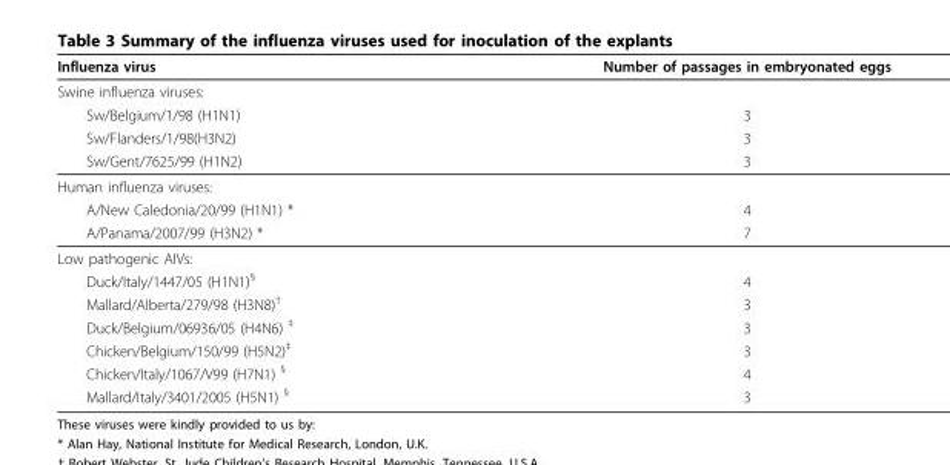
<table><thead><tr><td>Influenza virus</td><td>Number of passages in embryonated eggs</td></tr></thead><tbody><tr><td colspan="2">Swine influenza viruses:</td></tr><tr><td>Sw/Belgium/1/98 (H1N1)</td><td>3</td></tr><tr><td>Sw/Flanders/1/98(H3N2)</td><td>3</td></tr><tr><td>Sw/Gent/7625/99 (H1N2)</td><td>3</td></tr><tr><td colspan="2">Human influenza viruses:</td></tr><tr><td>A/New Caledonia/20/99 (H1N1) *</td><td>4</td></tr><tr><td>A/Panama/2007/99 (H3N2) *</td><td>7</td></tr><tr><td colspan="2">Low pathogenic AIVs:</td></tr><tr><td>Duck/Italy/1447/05 (H1N1)<sup>§</sup></td><td>4</td></tr><tr><td>Mallard/Alberta/279/98 (H3N8)<sup>†</sup></td><td>3</td></tr><tr><td>Duck/Belgium/06936/05 (H4N6) <sup>‡</sup></td><td>3</td></tr><tr><td>Chicken/Belgium/150/99 (H5N2)<sup>‡</sup></td><td>3</td></tr><tr><td>Chicken/Italy/1067/V99 (H7N1) <sup>§</sup></td><td>4</td></tr><tr><td>Mallard/Italy/3401/2005 (H5N1) <sup>§</sup></td><td>3</td></tr></tbody></table>